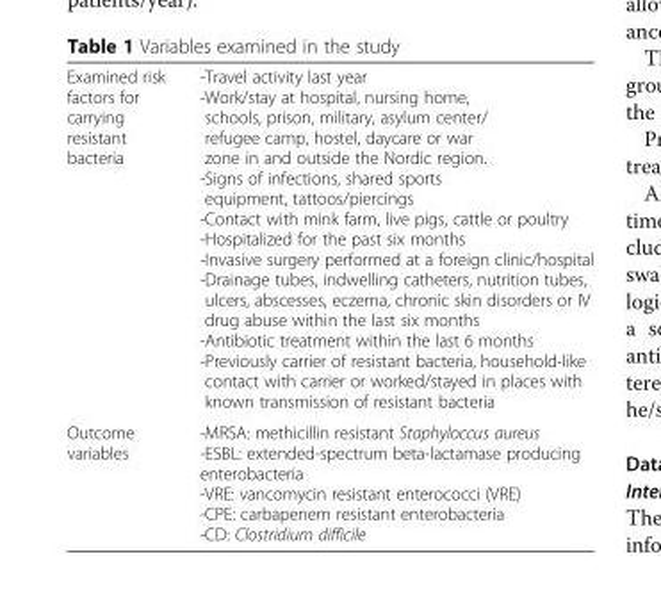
<table><tbody><tr><td>Examined risk factors for carrying resistant bacteria</td><td>-Travel activity last year -Work/stay at hospital, nursing home, schools, prison, military, asylum center/ refugee camp, hostel, daycare or war zone in and outside the Nordic region. -Signs of infections, shared sports equipment, tattoos/piercings -Contact with mink farm, live pigs, cattle or poultry -Hospitalized for the past six months -Invasive surgery performed at a foreign clinic/hospital -Drainage tubes, indwelling catheters, nutrition tubes, ulcers, abscesses, eczema, chronic skin disorders or IV drug abuse within the last six months -Antibiotic treatment within the last 6 months -Previously carrier of resistant bacteria, household-like contact with carrier or worked/stayed in places with known transmission of resistant bacteria</td></tr><tr><td>Outcome variables</td><td>-MRSA: methicillin resistant Staphyloccus aureus -ESBL: extended-spectrum beta-lactamase producing enterobacteria -VRE: vancomycin resistant enterococci (VRE) -CPE: carbapenem resistant enterobacteria -CD: Clostridium difficile</td></tr></tbody></table>